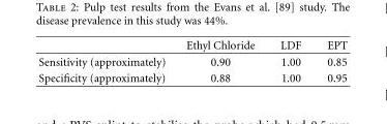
<table><thead><tr><td></td><td>Ethyl Chloride</td><td>LDF</td><td>EPT</td></tr></thead><tbody><tr><td>Sensitivity (approximately)</td><td>0.90</td><td>1.00</td><td>0.85</td></tr><tr><td>Specificity (approximately)</td><td>0.88</td><td>1.00</td><td>0.95</td></tr></tbody></table>